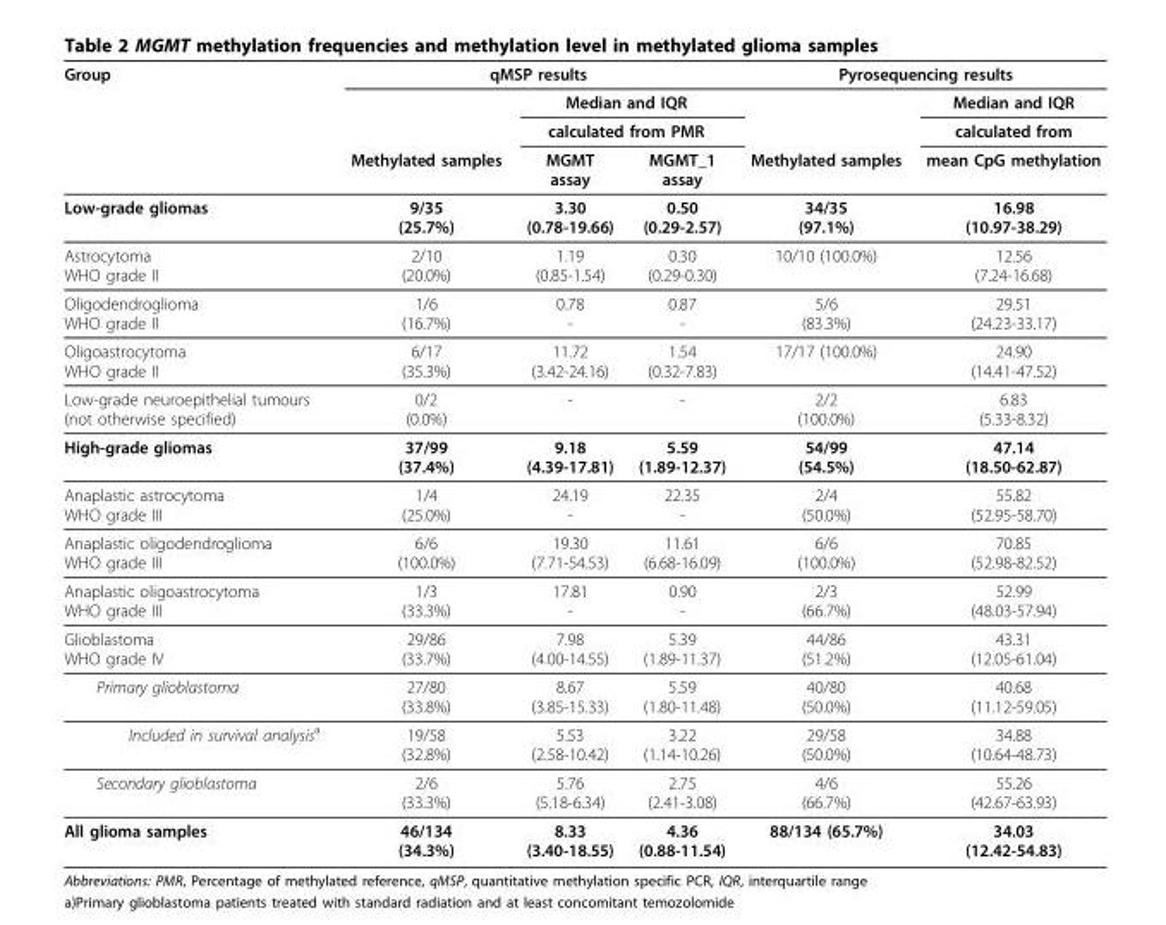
<table><thead><tr><td rowspan="4">Group</td><td colspan="3">qMSP results</td><td colspan="2">Pyrosequencing results</td></tr><tr><td rowspan="3">Methylated samples</td><td rowspan="2" colspan="2">Median and IQR calculated from PMR</td><td rowspan="3">Methylated samples</td><td rowspan="3">Median and IQR calculated from mean CpG methylation</td></tr><tr></tr><tr><td>MGMT assay</td><td>MGMT_1 assay</td></tr></thead><tbody><tr><td>Low-grade gliomas</td><td>9/35 (25.7%)</td><td>3.30 (0.78-19.66)</td><td>0.50 (0.29-2.57)</td><td>34/35 (97.1%)</td><td>16.98 (10.97-38.29)</td></tr><tr><td>Astrocytoma WHO grade II</td><td>2/10 (20.0%)</td><td>1.19 (0.85-1.54)</td><td>0.30 (0.29-0.30)</td><td>10/10 (100.0%)</td><td>12.56 (7.24-16.68)</td></tr><tr><td>Oligodendroglioma WHO grade II</td><td>1/6 (16.7%)</td><td>0.78 -</td><td>0.87 -</td><td>5/6 (83.3%)</td><td>29.51 (24.23-33.17)</td></tr><tr><td>Oligoastrocytoma WHO grade II</td><td>6/17 (35.3%)</td><td>11.72 (3.42-24.16)</td><td>1.54 (0.32-7.83)</td><td>17/17 (100.0%)</td><td>24.90 (14.41-47.52)</td></tr><tr><td>Low-grade neuroepithelial tumours (not otherwise specified)</td><td>0/2 (0.0%)</td><td>-</td><td>-</td><td>2/2 (100.0%)</td><td>6.83 (5.33-8.32)</td></tr><tr><td>High-grade gliomas</td><td>37/99 (37.4%)</td><td>9.18 (4.39-17.81)</td><td>5.59 (1.89-12.37)</td><td>54/99 (54.5%)</td><td>47.14 (18.50-62.87)</td></tr><tr><td>Anaplastic astrocytoma WHO grade III</td><td>1/4 (25.0%)</td><td>24.19 -</td><td>22.35 -</td><td>2/4 (50.0%)</td><td>55.82 (52.95-58.70)</td></tr><tr><td>Anaplastic oligodendroglioma WHO grade III</td><td>6/6 (100.0%)</td><td>19.30 (7.71-54.53)</td><td>11.61 (6.68-16.09)</td><td>6/6 (100.0%)</td><td>70.85 (52.98-82.52)</td></tr><tr><td>Anaplastic oligoastrocytoma WHO grade III</td><td>1/3 (33.3%)</td><td>17.81 -</td><td>0.90 -</td><td>2/3 (66.7%)</td><td>52.99 (48.03-57.94)</td></tr><tr><td>Glioblastoma WHO grade IV</td><td>29/86 (33.7%)</td><td>7.98 (4.00-14.55)</td><td>5.39 (1.89-11.37)</td><td>44/86 (51.2%)</td><td>43.31 (12.05-61.04)</td></tr><tr><td>Primary glioblastoma</td><td>27/80 (33.8%)</td><td>8.67 (3.85-15.33)</td><td>5.59 (1.80-11.48)</td><td>40/80 (50.0%)</td><td>40.68 (11.12-59.05)</td></tr><tr><td>Included in survival analysis<sup>a</sup></td><td>19/58 (32.8%)</td><td>5.53 (2.58-10.42)</td><td>3.22 (1.14-10.26)</td><td>29/58 (50.0%)</td><td>34.88 (10.64-48.73)</td></tr><tr><td>Secondary glioblastoma</td><td>2/6 (33.3%)</td><td>5.76 (5.18-6.34)</td><td>2.75 (2.41-3.08)</td><td>4/6 (66.7%)</td><td>55.26 (42.67-63.93)</td></tr><tr><td>All glioma samples</td><td>46/134 (34.3%)</td><td>8.33 (3.40-18.55)</td><td>4.36 (0.88-11.54)</td><td>88/134 (65.7%)</td><td>34.03 (12.42-54.83)</td></tr></tbody></table>